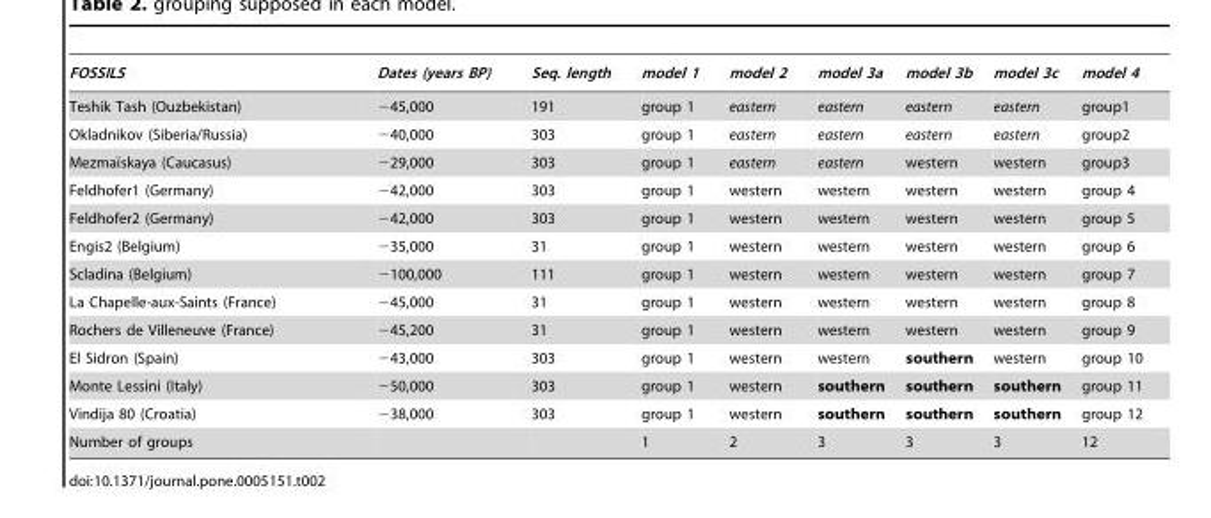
<table><thead><tr><td>FOSSILS</td><td>Dates (years BP)</td><td>Seq. length</td><td>model 1</td><td>model 2</td><td>model 3a</td><td>model 3b</td><td>model 3c</td><td>model 4</td></tr></thead><tbody><tr><td>Teshik Tash (Ouzbekistan)</td><td>−45,000</td><td>191</td><td>group 1</td><td>eastern</td><td>eastern</td><td>eastern</td><td>eastern</td><td>group1</td></tr><tr><td>Okladnikov (Siberia/Russia)</td><td>−40,000</td><td>303</td><td>group 1</td><td>eastern</td><td>eastern</td><td>eastern</td><td>eastern</td><td>group2</td></tr><tr><td>Mezmaı¨skaya (Caucasus)</td><td>−29,000</td><td>303</td><td>group 1</td><td>eastern</td><td>eastern</td><td>western</td><td>western</td><td>group3</td></tr><tr><td>Feldhofer1 (Germany)</td><td>−42,000</td><td>303</td><td>group 1</td><td>western</td><td>western</td><td>western</td><td>western</td><td>group 4</td></tr><tr><td>Feldhofer2 (Germany)</td><td>−42,000</td><td>303</td><td>group 1</td><td>western</td><td>western</td><td>western</td><td>western</td><td>group 5</td></tr><tr><td>Engis2 (Belgium)</td><td>−35,000</td><td>31</td><td>group 1</td><td>western</td><td>western</td><td>western</td><td>western</td><td>group 6</td></tr><tr><td>Scladina (Belgium)</td><td>−100,000</td><td>111</td><td>group 1</td><td>western</td><td>western</td><td>western</td><td>western</td><td>group 7</td></tr><tr><td>La Chapelle-aux-Saints (France)</td><td>−45,000</td><td>31</td><td>group 1</td><td>western</td><td>western</td><td>western</td><td>western</td><td>group 8</td></tr><tr><td>Rochers de Villeneuve (France)</td><td>−45,200</td><td>31</td><td>group 1</td><td>western</td><td>western</td><td>western</td><td>western</td><td>group 9</td></tr><tr><td>El Sidron (Spain)</td><td>−43,000</td><td>303</td><td>group 1</td><td>western</td><td>western</td><td>southern</td><td>western</td><td>group 10</td></tr><tr><td>Monte Lessini (Italy)</td><td>−50,000</td><td>303</td><td>group 1</td><td>western</td><td>southern</td><td>southern</td><td>southern</td><td>group 11</td></tr><tr><td>Vindija 80 (Croatia)</td><td>−38,000</td><td>303</td><td>group 1</td><td>western</td><td>southern</td><td>southern</td><td>southern</td><td>group 12</td></tr><tr><td>Number of groups</td><td></td><td></td><td>1</td><td>2</td><td>3</td><td>3</td><td>3</td><td>12</td></tr></tbody></table>